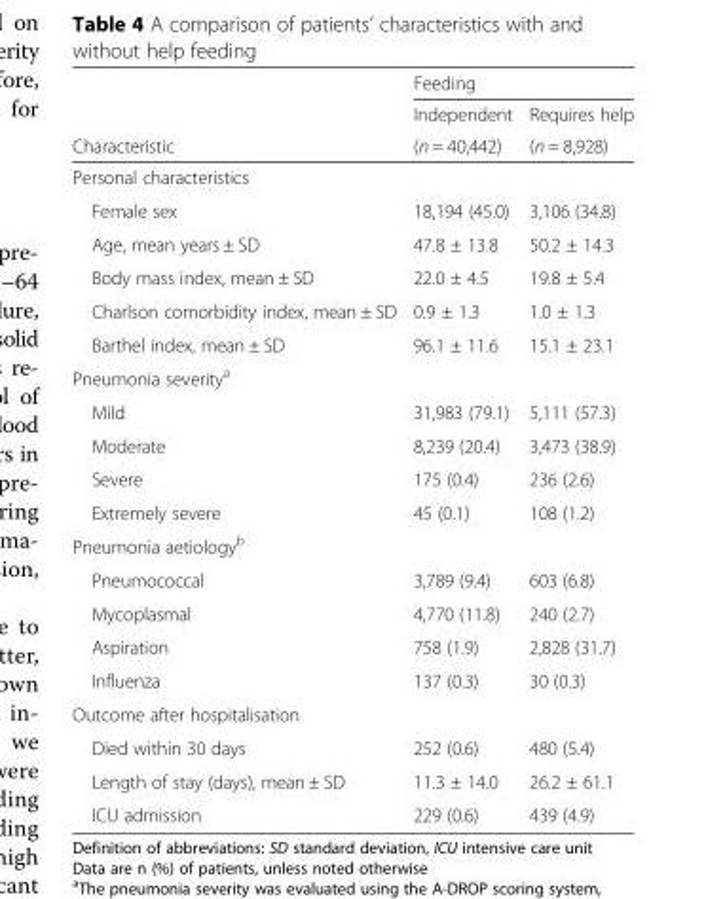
<table><thead><tr><td rowspan="3">Characteristic</td><td colspan="2">Feeding</td></tr><tr><td rowspan="2">Independent (n = 40,442)</td><td rowspan="2">Requires help (n = 8,928)</td></tr><tr></tr></thead><tbody><tr><td colspan="3">Personal characteristics</td></tr><tr><td>Female sex</td><td>18,194 (45.0)</td><td>3,106 (34.8)</td></tr><tr><td>Age, mean years ± SD</td><td>47.8 ± 13.8</td><td>50.2 ± 14.3</td></tr><tr><td>Body mass index, mean ± SD</td><td>22.0 ± 4.5</td><td>19.8 ± 5.4</td></tr><tr><td>Charlson comorbidity index, mean ± SD</td><td>0.9 ± 1.3</td><td>1.0 ± 1.3</td></tr><tr><td>Barthel index, mean ± SD</td><td>96.1 ± 11.6</td><td>15.1 ± 23.1</td></tr><tr><td colspan="3">Pneumonia severity<sup>a</sup></td></tr><tr><td>Mild</td><td>31,983 (79.1)</td><td>5,111 (57.3)</td></tr><tr><td>Moderate</td><td>8,239 (20.4)</td><td>3,473 (38.9)</td></tr><tr><td>Severe</td><td>175 (0.4)</td><td>236 (2.6)</td></tr><tr><td>Extremely severe</td><td>45 (0.1)</td><td>108 (1.2)</td></tr><tr><td colspan="3">Pneumonia aetiology<sup>b</sup></td></tr><tr><td>Pneumococcal</td><td>3,789 (9.4)</td><td>603 (6.8)</td></tr><tr><td>Mycoplasmal</td><td>4,770 (11.8)</td><td>240 (2.7)</td></tr><tr><td>Aspiration</td><td>758 (1.9)</td><td>2,828 (31.7)</td></tr><tr><td>Influenza</td><td>137 (0.3)</td><td>30 (0.3)</td></tr><tr><td colspan="3">Outcome after hospitalisation</td></tr><tr><td>Died within 30 days</td><td>252 (0.6)</td><td>480 (5.4)</td></tr><tr><td>Length of stay (days), mean ± SD</td><td>11.3 ± 14.0</td><td>26.2 ± 61.1</td></tr><tr><td>ICU admission</td><td>229 (0.6)</td><td>439 (4.9)</td></tr></tbody></table>